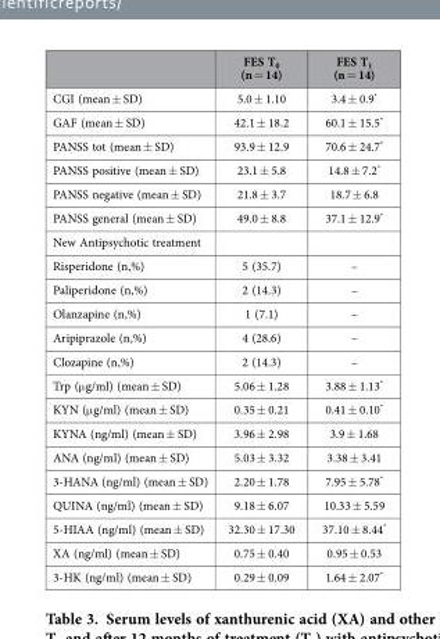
<table><thead><tr><td></td><td>FES T<sub>0</sub> (n = 14)</td><td>FES T<sub>1</sub> (n = 14)</td></tr></thead><tbody><tr><td>CGI (mean ± SD)</td><td>5.0 ± 1.10</td><td>3.4 ± 0.9*</td></tr><tr><td>GAF (mean ± SD)</td><td>42.1 ± 18.2</td><td>60.1 ± 15.5*</td></tr><tr><td>PANSS tot (mean ± SD)</td><td>93.9 ± 12.9</td><td>70.6 ± 24.7*</td></tr><tr><td>PANSS positive (mean ± SD)</td><td>23.1 ± 5.8</td><td>14.8 ± 7.2*</td></tr><tr><td>PANSS negative (mean ± SD)</td><td>21.8 ± 3.7</td><td>18.7 ± 6.8</td></tr><tr><td>PANSS general (mean ± SD)</td><td>49.0 ± 8.8</td><td>37.1 ± 12.9*</td></tr><tr><td colspan="3">New Antipsychotic treatment</td></tr><tr><td>Risperidone (n,%)</td><td>5 (35.7)</td><td>–</td></tr><tr><td>Paliperidone (n,%)</td><td>2 (14.3)</td><td>–</td></tr><tr><td>Olanzapine (n,%)</td><td>1 (7.1)</td><td>–</td></tr><tr><td>Aripiprazole (n,%)</td><td>4 (28.6)</td><td>–</td></tr><tr><td>Clozapine (n,%)</td><td>2 (14.3)</td><td>–</td></tr><tr><td>Trp (μ g/ml) (mean ± SD)</td><td>5.06 ± 1.28</td><td>3.88 ± 1.13*</td></tr><tr><td>KYN (μ g/ml) (mean ± SD)</td><td>0.35 ± 0.21</td><td>0.41 ± 0.10*</td></tr><tr><td>KYNA (ng/ml) (mean ± SD)</td><td>3.96 ± 2.98</td><td>3.9 ± 1.68</td></tr><tr><td>ANA (ng/ml) (mean ± SD)</td><td>5.03 ± 3.32</td><td>3.38 ± 3.41</td></tr><tr><td>3-HANA (ng/ml) (mean ± SD)</td><td>2.20 ± 1.78</td><td>7.95 ± 5.78*</td></tr><tr><td>QUINA (ng/ml) (mean ± SD)</td><td>9.18 ± 6.07</td><td>10.33 ± 5.59</td></tr><tr><td>5-HIAA (ng/ml) (mean ± SD)</td><td>32.30 ± 17.30</td><td>37.10 ± 8.44*</td></tr><tr><td>XA (ng/ml) (mean ± SD)</td><td>0.75 ± 0.40</td><td>0.95 ± 0.53</td></tr><tr><td>3-HK (ng/ml) (mean ± SD)</td><td>0.29 ± 0.09</td><td>1.64 ± 2.07*</td></tr></tbody></table>